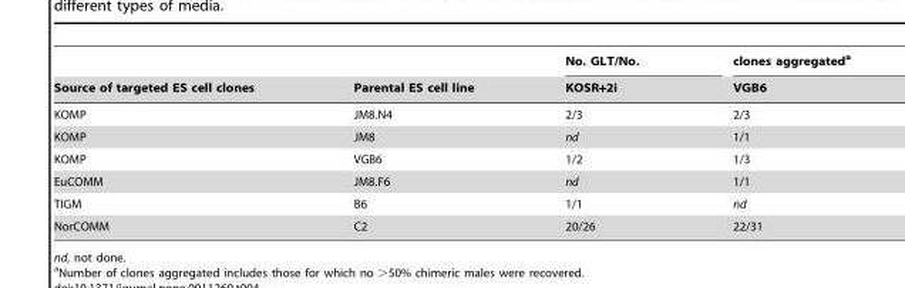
<table><thead><tr><td rowspan="2">Source of targeted ES cell clones</td><td rowspan="2">Parental ES cell line</td><td rowspan="2">No. GLT/No. KOSR+2i</td><td rowspan="2">clones aggregated<sup>a</sup> VGB6</td></tr><tr></tr></thead><tbody><tr><td>KOMP</td><td>JM8.N4</td><td>2/3</td><td>2/3</td></tr><tr><td>KOMP</td><td>JM8</td><td>nd</td><td>1/1</td></tr><tr><td>KOMP</td><td>VGB6</td><td>1/2</td><td>1/3</td></tr><tr><td>EuCOMM</td><td>JM8.F6</td><td>nd</td><td>1/1</td></tr><tr><td>TIGM</td><td>B6</td><td>1/1</td><td>nd</td></tr><tr><td>NorCOMM</td><td>C2</td><td>20/26</td><td>22/31</td></tr></tbody></table>